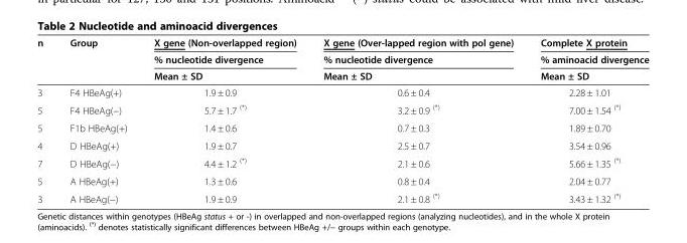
<table><thead><tr><td rowspan="3">n</td><td rowspan="3">Group</td><td rowspan="3">X gene (Non-overlapped region) % nucleotide divergence Mean ± SD</td><td rowspan="3">X gene (Over-lapped region with pol gene) % nucleotide divergence Mean ± SD</td><td rowspan="3">Complete X protein % aminoacid divergence Mean ± SD</td></tr><tr></tr><tr></tr></thead><tbody><tr><td>3</td><td>F4 HBeAg(+)</td><td>1.9 ± 0.9</td><td>0.6 ± 0.4</td><td>2.28 ± 1.01</td></tr><tr><td>5</td><td>F4 HBeAg(−)</td><td>5.7 ± 1.7 <sup>(*)</sup></td><td>3.2 ± 0.9 <sup>(*)</sup></td><td>7.00 ± 1.54 <sup>(*)</sup></td></tr><tr><td>5</td><td>F1b HBeAg(+)</td><td>1.4 ± 0.6</td><td>0.7 ± 0.3</td><td>1.89 ± 0.70</td></tr><tr><td>4</td><td>D HBeAg(+)</td><td>1.9 ± 0.7</td><td>2.5 ± 0.7</td><td>3.54 ± 0.96</td></tr><tr><td>7</td><td>D HBeAg(−)</td><td>4.4 ± 1.2 <sup>(*)</sup></td><td>2.1 ± 0.6</td><td>5.66 ± 1.35 <sup>(*)</sup></td></tr><tr><td>5</td><td>A HBeAg(+)</td><td>1.3 ± 0.6</td><td>0.8 ± 0.4</td><td>2.04 ± 0.77</td></tr><tr><td>3</td><td>A HBeAg(−)</td><td>1.9 ± 0.9</td><td>2.1 ± 0.8 <sup>(*)</sup></td><td>3.43 ± 1.32 <sup>(*)</sup></td></tr></tbody></table>